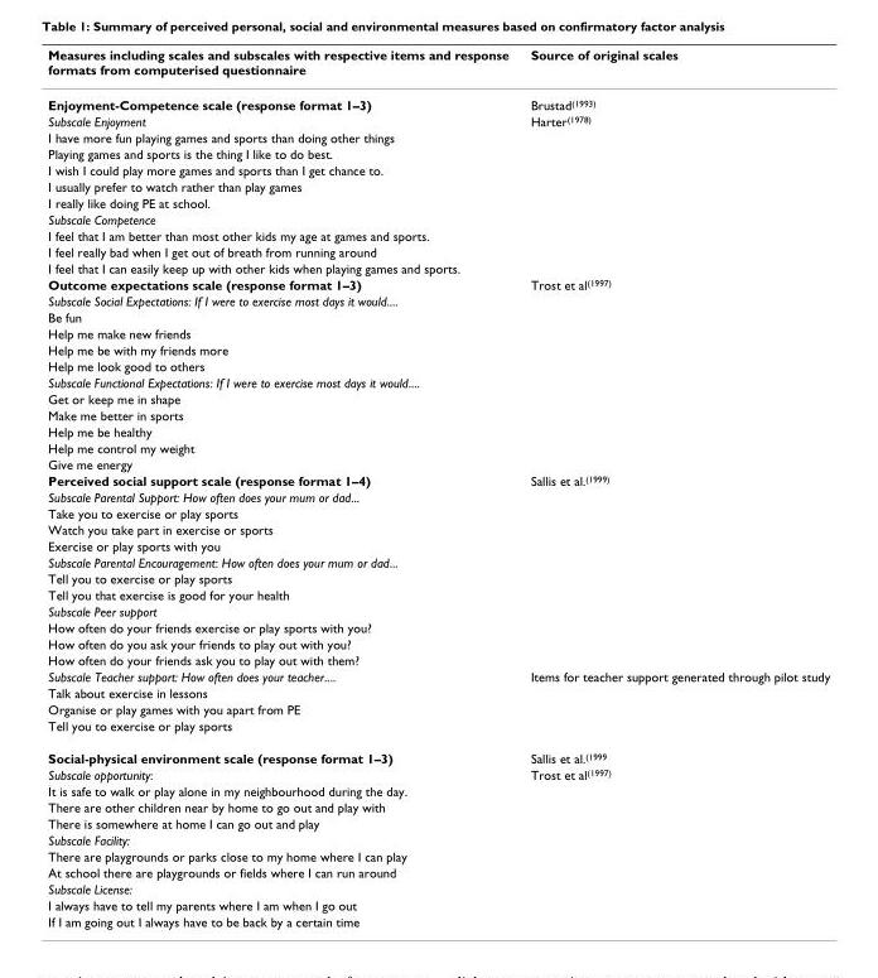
<table><thead><tr><td>Measures including scales and subscales with respective items and response formats from computerised questionnaire</td><td>Source of original scales</td></tr></thead><tbody><tr><td>Enjoyment-Competence scale (response format 1–3)</td><td>Brustad<sup>(1993)</sup></td></tr><tr><td>Subscale Enjoyment</td><td>Harter<sup>(1978)</sup></td></tr><tr><td colspan="2">I have more fun playing games and sports than doing other things</td></tr><tr><td colspan="2">Playing games and sports is the thing I like to do best.</td></tr><tr><td colspan="2">I wish I could play more games and sports than I get chance to.</td></tr><tr><td colspan="2">I usually prefer to watch rather than play games</td></tr><tr><td colspan="2">I really like doing PE at school.</td></tr><tr><td colspan="2">Subscale Competence</td></tr><tr><td colspan="2">I feel that I am better than most other kids my age at games and sports.</td></tr><tr><td colspan="2">I feel really bad when I get out of breath from running around</td></tr><tr><td colspan="2">I feel that I can easily keep up with other kids when playing games and sports.</td></tr><tr><td>Outcome expectations scale (response format 1–3)</td><td>Trost et al<sup>(1997)</sup></td></tr><tr><td colspan="2">Subscale Social Expectations: If I were to exercise most days it would....</td></tr><tr><td colspan="2">Be fun</td></tr><tr><td colspan="2">Help me make new friends</td></tr><tr><td colspan="2">Help me be with my friends more</td></tr><tr><td colspan="2">Help me look good to others</td></tr><tr><td colspan="2">Subscale Functional Expectations: If I were to exercise most days it would....</td></tr><tr><td colspan="2">Get or keep me in shape</td></tr><tr><td colspan="2">Make me better in sports</td></tr><tr><td colspan="2">Help me be healthy</td></tr><tr><td colspan="2">Help me control my weight</td></tr><tr><td colspan="2">Give me energy</td></tr><tr><td>Perceived social support scale (response format 1–4)</td><td>Sallis et al.<sup>(1999)</sup></td></tr><tr><td colspan="2">Subscale Parental Support: How often does your mum or dad...</td></tr><tr><td colspan="2">Take you to exercise or play sports</td></tr><tr><td colspan="2">Watch you take part in exercise or sports</td></tr><tr><td colspan="2">Exercise or play sports with you</td></tr><tr><td colspan="2">Subscale Parental Encouragement: How often does your mum or dad...</td></tr><tr><td colspan="2">Tell you to exercise or play sports</td></tr><tr><td colspan="2">Tell you that exercise is good for your health</td></tr><tr><td colspan="2">Subscale Peer support</td></tr><tr><td colspan="2">How often do your friends exercise or play sports with you?</td></tr><tr><td colspan="2">How often do you ask your friends to play out with you?</td></tr><tr><td colspan="2">How often do your friends ask you to play out with them?</td></tr><tr><td>Subscale Teacher support: How often does your teacher....</td><td>Items for teacher support generated through pilot study</td></tr><tr><td colspan="2">Talk about exercise in lessons</td></tr><tr><td colspan="2">Organise or play games with you apart from PE</td></tr><tr><td colspan="2">Tell you to exercise or play sports</td></tr><tr><td>Social-physical environment scale (response format 1–3)</td><td>Sallis et al.<sup>(1999</sup></td></tr><tr><td>Subscale opportunity:</td><td>Trost et al<sup>(1997)</sup></td></tr><tr><td colspan="2">It is safe to walk or play alone in my neighbourhood during the day.</td></tr><tr><td colspan="2">There are other children near by home to go out and play with</td></tr><tr><td colspan="2">There is somewhere at home I can go out and play</td></tr><tr><td colspan="2">Subscale Facility:</td></tr><tr><td colspan="2">There are playgrounds or parks close to my home where I can play</td></tr><tr><td colspan="2">At school there are playgrounds or fields where I can run around</td></tr><tr><td colspan="2">Subscale License:</td></tr><tr><td colspan="2">I always have to tell my parents where I am when I go out</td></tr><tr><td>If I am going out I always have to be back by a certain time</td><td></td></tr></tbody></table>